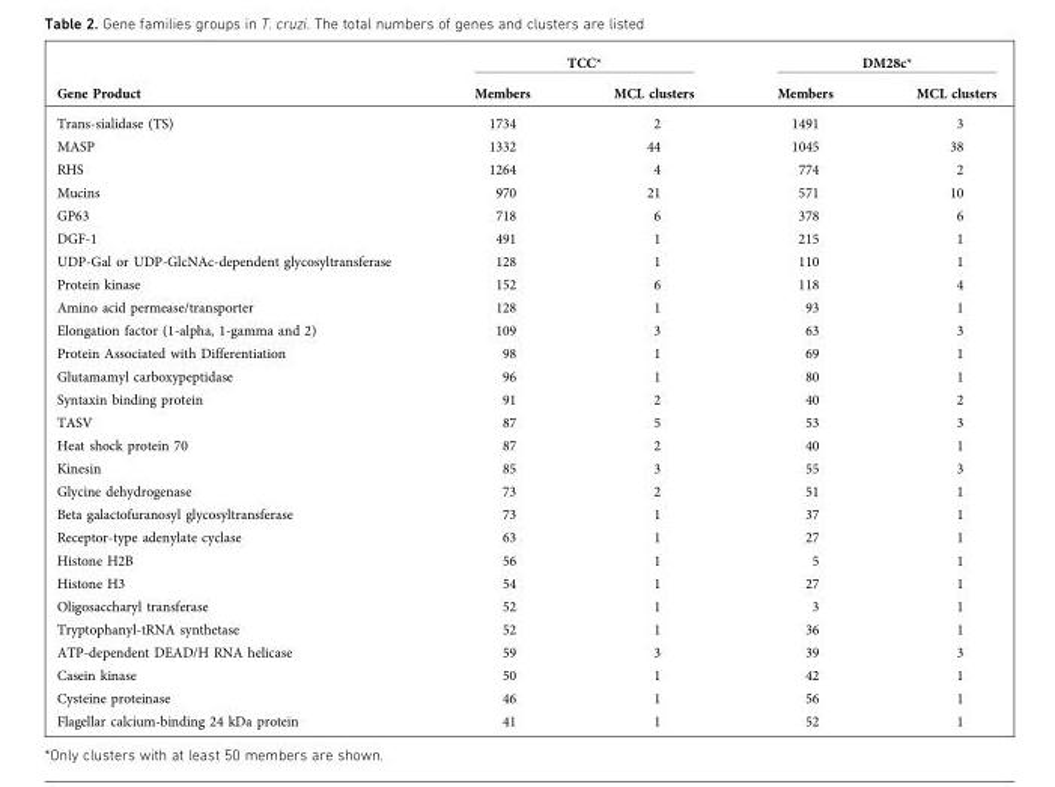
<table><thead><tr><td rowspan="2">Gene Product</td><td colspan="2">TCC*</td><td colspan="2">DM28c*</td></tr><tr><td>Members</td><td>MCL clusters</td><td>Members</td><td>MCL clusters</td></tr></thead><tbody><tr><td>Trans-sialidase (TS)</td><td>1734</td><td>2</td><td>1491</td><td>3</td></tr><tr><td>MASP</td><td>1332</td><td>44</td><td>1045</td><td>38</td></tr><tr><td>RHS</td><td>1264</td><td>4</td><td>774</td><td>2</td></tr><tr><td>Mucins</td><td>970</td><td>21</td><td>571</td><td>10</td></tr><tr><td>GP63</td><td>718</td><td>6</td><td>378</td><td>6</td></tr><tr><td>DGF-1</td><td>491</td><td>1</td><td>215</td><td>1</td></tr><tr><td>UDP-Gal or UDP-GlcNAc-dependent glycosyltransferase</td><td>128</td><td>1</td><td>110</td><td>1</td></tr><tr><td>Protein kinase</td><td>152</td><td>6</td><td>118</td><td>4</td></tr><tr><td>Amino acid permease/transporter</td><td>128</td><td>1</td><td>93</td><td>1</td></tr><tr><td>Elongation factor (1-alpha, 1-gamma and 2)</td><td>109</td><td>3</td><td>63</td><td>3</td></tr><tr><td>Protein Associated with Differentiation</td><td>98</td><td>1</td><td>69</td><td>1</td></tr><tr><td>Glutamamyl carboxypeptidase</td><td>96</td><td>1</td><td>80</td><td>1</td></tr><tr><td>Syntaxin binding protein</td><td>91</td><td>2</td><td>40</td><td>2</td></tr><tr><td>TASV</td><td>87</td><td>5</td><td>53</td><td>3</td></tr><tr><td>Heat shock protein 70</td><td>87</td><td>2</td><td>40</td><td>1</td></tr><tr><td>Kinesin</td><td>85</td><td>3</td><td>55</td><td>3</td></tr><tr><td>Glycine dehydrogenase</td><td>73</td><td>2</td><td>51</td><td>1</td></tr><tr><td>Beta galactofuranosyl glycosyltransferase</td><td>73</td><td>1</td><td>37</td><td>1</td></tr><tr><td>Receptor-type adenylate cyclase</td><td>63</td><td>1</td><td>27</td><td>1</td></tr><tr><td>Histone H2B</td><td>56</td><td>1</td><td>5</td><td>1</td></tr><tr><td>Histone H3</td><td>54</td><td>1</td><td>27</td><td>1</td></tr><tr><td>Oligosaccharyl transferase</td><td>52</td><td>1</td><td>3</td><td>1</td></tr><tr><td>Tryptophanyl-tRNA synthetase</td><td>52</td><td>1</td><td>36</td><td>1</td></tr><tr><td>ATP-dependent DEAD/H RNA helicase</td><td>59</td><td>3</td><td>39</td><td>3</td></tr><tr><td>Casein kinase</td><td>50</td><td>1</td><td>42</td><td>1</td></tr><tr><td>Cysteine proteinase</td><td>46</td><td>1</td><td>56</td><td>1</td></tr><tr><td>Flagellar calcium-binding 24 kDa protein</td><td>41</td><td>1</td><td>52</td><td>1</td></tr></tbody></table>